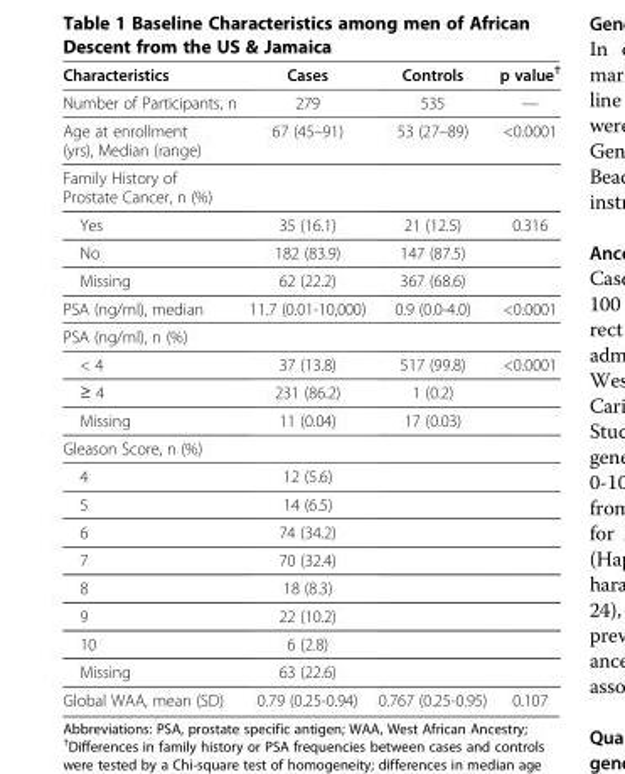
<table><thead><tr><td>Characteristics</td><td>Cases</td><td>Controls</td><td>p value<sup>†</sup></td></tr></thead><tbody><tr><td>Number of Participants, n</td><td>279</td><td>535</td><td>—</td></tr><tr><td>Age at enrollment (yrs), Median (range)</td><td>67 (45–91)</td><td>53 (27–89)</td><td>&lt;0.0001</td></tr><tr><td colspan="4">Family History of Prostate Cancer, n (%)</td></tr><tr><td>Yes</td><td>35 (16.1)</td><td>21 (12.5)</td><td>0.316</td></tr><tr><td>No</td><td>182 (83.9)</td><td>147 (87.5)</td><td></td></tr><tr><td>Missing</td><td>62 (22.2)</td><td>367 (68.6)</td><td></td></tr><tr><td>PSA (ng/ml), median</td><td>11.7 (0.01-10,000)</td><td>0.9 (0.0-4.0)</td><td>&lt;0.0001</td></tr><tr><td colspan="4">PSA (ng/ml), n (%)</td></tr><tr><td>&lt; 4</td><td>37 (13.8)</td><td>517 (99.8)</td><td>&lt;0.0001</td></tr><tr><td>≥ 4</td><td>231 (86.2)</td><td>1 (0.2)</td><td></td></tr><tr><td>Missing</td><td>11 (0.04)</td><td>17 (0.03)</td><td></td></tr><tr><td colspan="4">Gleason Score, n (%)</td></tr><tr><td>4</td><td>12 (5.6)</td><td></td><td></td></tr><tr><td>5</td><td>14 (6.5)</td><td></td><td></td></tr><tr><td>6</td><td>74 (34.2)</td><td></td><td></td></tr><tr><td>7</td><td>70 (32.4)</td><td></td><td></td></tr><tr><td>8</td><td>18 (8.3)</td><td></td><td></td></tr><tr><td>9</td><td>22 (10.2)</td><td></td><td></td></tr><tr><td>10</td><td>6 (2.8)</td><td></td><td></td></tr><tr><td>Missing</td><td>63 (22.6)</td><td></td><td></td></tr><tr><td>Global WAA, mean (SD)</td><td>0.79 (0.25-0.94)</td><td>0.767 (0.25-0.95)</td><td>0.107</td></tr></tbody></table>